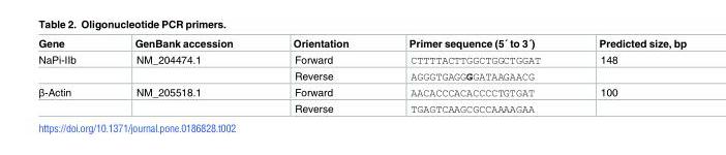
<table><thead><tr><td>Gene</td><td>GenBank accession</td><td>Orientation</td><td>Primer sequence (5´ to 3´)</td><td>Predicted size, bp</td></tr></thead><tbody><tr><td rowspan="2">NaPi-IIb</td><td>NM_204474.1</td><td>Forward</td><td>CTTTTACTTGGCTGGCTGGAT</td><td>148</td></tr><tr><td></td><td>Reverse</td><td>AGGGTGAGGGGATAAGAACG</td><td></td></tr><tr><td rowspan="2">β-Actin</td><td>NM_205518.1</td><td>Forward</td><td>AACACCCACACCCCTGTGAT</td><td>100</td></tr><tr><td></td><td>Reverse</td><td>TGAGTCAAGCGCCAAAAGAA</td><td></td></tr></tbody></table>